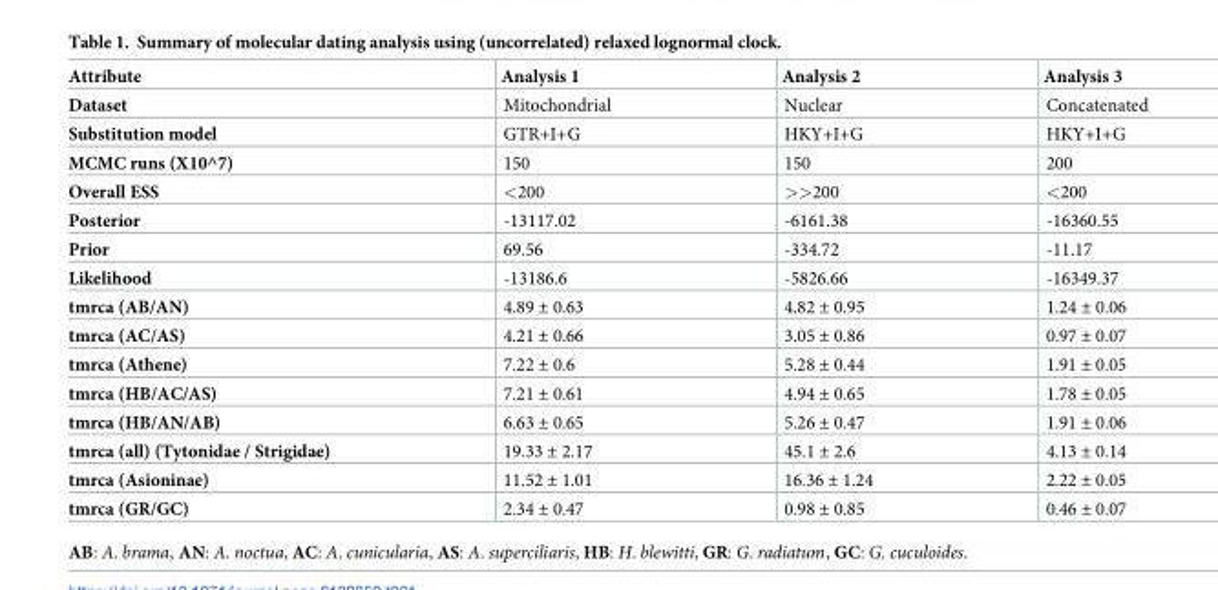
<table><thead><tr><td>Attribute</td><td>Analysis 1</td><td>Analysis 2</td><td>Analysis 3</td></tr></thead><tbody><tr><td>Dataset</td><td>Mitochondrial</td><td>Nuclear</td><td>Concatenated</td></tr><tr><td>Substitution model</td><td>GTR+I+G</td><td>HKY+I+G</td><td>HKY+I+G</td></tr><tr><td>MCMC runs (X10^7)</td><td>150</td><td>150</td><td>200</td></tr><tr><td>Overall ESS</td><td>&lt;200</td><td>&gt;&gt;200</td><td>&lt;200</td></tr><tr><td>Posterior</td><td>-13117.02</td><td>-6161.38</td><td>-16360.55</td></tr><tr><td>Prior</td><td>69.56</td><td>-334.72</td><td>-11.17</td></tr><tr><td>Likelihood</td><td>-13186.6</td><td>-5826.66</td><td>-16349.37</td></tr><tr><td>tmrca (AB/AN)</td><td>4.89 ± 0.63</td><td>4.82 ± 0.95</td><td>1.24 ± 0.06</td></tr><tr><td>tmrca (AC/AS)</td><td>4.21 ± 0.66</td><td>3.05 ± 0.86</td><td>0.97 ± 0.07</td></tr><tr><td>tmrca (Athene)</td><td>7.22 ± 0.6</td><td>5.28 ± 0.44</td><td>1.91 ± 0.05</td></tr><tr><td>tmrca (HB/AC/AS)</td><td>7.21 ± 0.61</td><td>4.94 ± 0.65</td><td>1.78 ± 0.05</td></tr><tr><td>tmrca (HB/AN/AB)</td><td>6.63 ± 0.65</td><td>5.26 ± 0.47</td><td>1.91 ± 0.06</td></tr><tr><td>tmrca (all) (Tytonidae / Strigidae)</td><td>19.33 ± 2.17</td><td>45.1 ± 2.6</td><td>4.13 ± 0.14</td></tr><tr><td>tmrca (Asioninae)</td><td>11.52 ± 1.01</td><td>16.36 ± 1.24</td><td>2.22 ± 0.05</td></tr><tr><td>tmrca (GR/GC)</td><td>2.34 ± 0.47</td><td>0.98 ± 0.85</td><td>0.46 ± 0.07</td></tr></tbody></table>